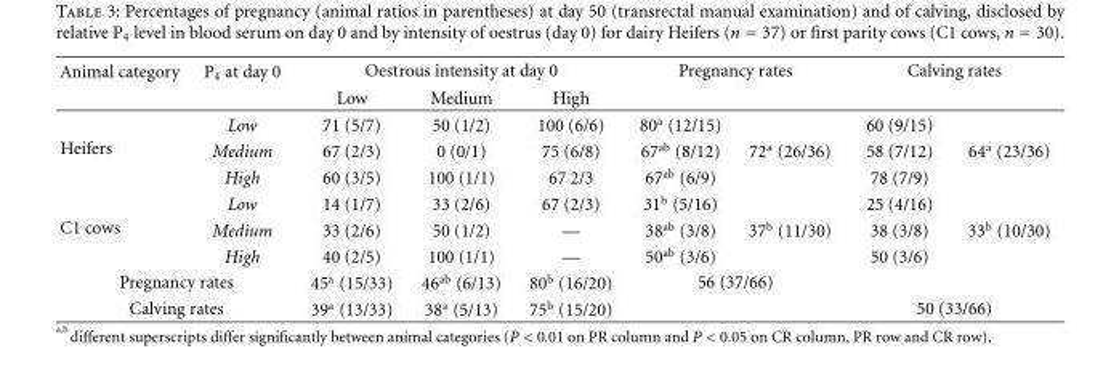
<table><thead><tr><td rowspan="2">Animal category</td><td rowspan="2">P<sub>4</sub> at day 0</td><td colspan="3">Oestrous intensity at day 0</td><td colspan="2">Pregnancy rates</td><td colspan="2">Calving rates</td></tr><tr><td>Low</td><td>Medium</td><td>High</td><td></td><td></td><td></td><td></td></tr></thead><tbody><tr><td rowspan="3">Heifers</td><td>Low</td><td>71 (5/7)</td><td>50 (1/2)</td><td>100 (6/6)</td><td>80<sup>a</sup> (12/15)</td><td></td><td>60 (9/15)</td><td></td></tr><tr><td>Medium</td><td>67 (2/3)</td><td>0 (0/1)</td><td>75 (6/8)</td><td>67<sup>ab</sup> (8/12)</td><td>72<sup>a</sup> (26/36)</td><td>58 (7/12)</td><td>64<sup>a</sup> (23/36)</td></tr><tr><td>High</td><td>60 (3/5)</td><td>100 (1/1)</td><td>67 2/3</td><td>67<sup>ab</sup> (6/9)</td><td></td><td>78 (7/9)</td><td></td></tr><tr><td rowspan="3">C1 cows</td><td>Low</td><td>14 (1/7)</td><td>33 (2/6)</td><td>67 (2/3)</td><td>31<sup>b</sup> (5/16)</td><td></td><td>25 (4/16)</td><td></td></tr><tr><td>Medium</td><td>33 (2/6)</td><td>50 (1/2)</td><td>—</td><td>38<sup>ab</sup> (3/8)</td><td>37<sup>b</sup> (11/30)</td><td>38 (3/8)</td><td>33<sup>b</sup> (10/30)</td></tr><tr><td>High</td><td>40 (2/5)</td><td>100 (1/1)</td><td>—</td><td>50<sup>ab</sup> (3/6)</td><td></td><td>50 (3/6)</td><td></td></tr><tr><td colspan="2">Pregnancy rates</td><td>45<sup>a</sup> (15/33)</td><td>46<sup>ab</sup> (6/13)</td><td>80<sup>b</sup> (16/20)</td><td colspan="2">56 (37/66)</td><td></td><td></td></tr><tr><td colspan="2">Calving rates</td><td>39<sup>a</sup> (13/33)</td><td>38<sup>a</sup> (5/13)</td><td>75<sup>b</sup> (15/20)</td><td></td><td></td><td colspan="2">50 (33/66)</td></tr></tbody></table>